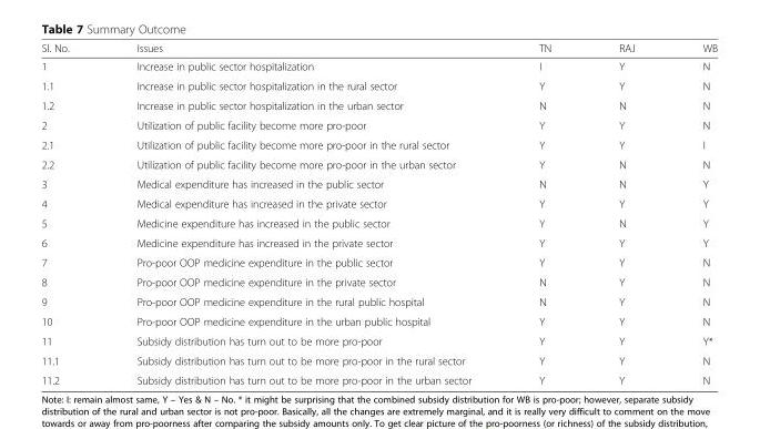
<table><thead><tr><td>Sl. No.</td><td>Issues</td><td>TN</td><td>RAJ</td><td>WB</td></tr></thead><tbody><tr><td>1</td><td>Increase in public sector hospitalization</td><td>I</td><td>Y</td><td>N</td></tr><tr><td>1.1</td><td>Increase in public sector hospitalization in the rural sector</td><td>Y</td><td>Y</td><td>N</td></tr><tr><td>1.2</td><td>Increase in public sector hospitalization in the urban sector</td><td>N</td><td>N</td><td>N</td></tr><tr><td>2</td><td>Utilization of public facility become more pro-poor</td><td>Y</td><td>Y</td><td>N</td></tr><tr><td>2.1</td><td>Utilization of public facility become more pro-poor in the rural sector</td><td>Y</td><td>Y</td><td>I</td></tr><tr><td>2.2</td><td>Utilization of public facility become more pro-poor in the urban sector</td><td>Y</td><td>N</td><td>N</td></tr><tr><td>3</td><td>Medical expenditure has increased in the public sector</td><td>N</td><td>N</td><td>Y</td></tr><tr><td>4</td><td>Medical expenditure has increased in the private sector</td><td>Y</td><td>Y</td><td>Y</td></tr><tr><td>5</td><td>Medicine expenditure has increased in the public sector</td><td>Y</td><td>N</td><td>Y</td></tr><tr><td>6</td><td>Medicine expenditure has increased in the private sector</td><td>Y</td><td>Y</td><td>Y</td></tr><tr><td>7</td><td>Pro-poor OOP medicine expenditure in the public sector</td><td>Y</td><td>Y</td><td>N</td></tr><tr><td>8</td><td>Pro-poor OOP medicine expenditure in the private sector</td><td>N</td><td>Y</td><td>N</td></tr><tr><td>9</td><td>Pro-poor OOP medicine expenditure in the rural public hospital</td><td>N</td><td>Y</td><td>N</td></tr><tr><td>10</td><td>Pro-poor OOP medicine expenditure in the urban public hospital</td><td>Y</td><td>Y</td><td>N</td></tr><tr><td>11</td><td>Subsidy distribution has turn out to be more pro-poor</td><td>Y</td><td>Y</td><td>Y*</td></tr><tr><td>11.1</td><td>Subsidy distribution has turn out to be more pro-poor in the rural sector</td><td>Y</td><td>Y</td><td>N</td></tr><tr><td>11.2</td><td>Subsidy distribution has turn out to be more pro-poor in the urban sector</td><td>Y</td><td>Y</td><td>N</td></tr></tbody></table>